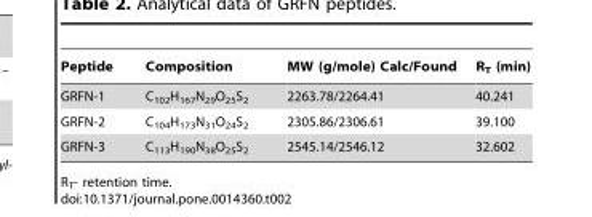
<table><thead><tr><td>Peptide</td><td>Composition</td><td>MW (g/mole) Calc/Found</td><td>R<sub>T</sub> (min)</td></tr></thead><tbody><tr><td>GRFN-1</td><td>C<sub>102</sub>H<sub>167</sub>N<sub>29</sub>O<sub>25</sub>S<sub>2</sub></td><td>2263.78/2264.41</td><td>40.241</td></tr><tr><td>GRFN-2</td><td>C<sub>104</sub>H<sub>173</sub>N<sub>31</sub>O<sub>24</sub>S<sub>2</sub></td><td>2305.86/2306.61</td><td>39.100</td></tr><tr><td>GRFN-3</td><td>C<sub>113</sub>H<sub>190</sub>N<sub>38</sub>O<sub>25</sub>S<sub>2</sub></td><td>2545.14/2546.12</td><td>32.602</td></tr></tbody></table>